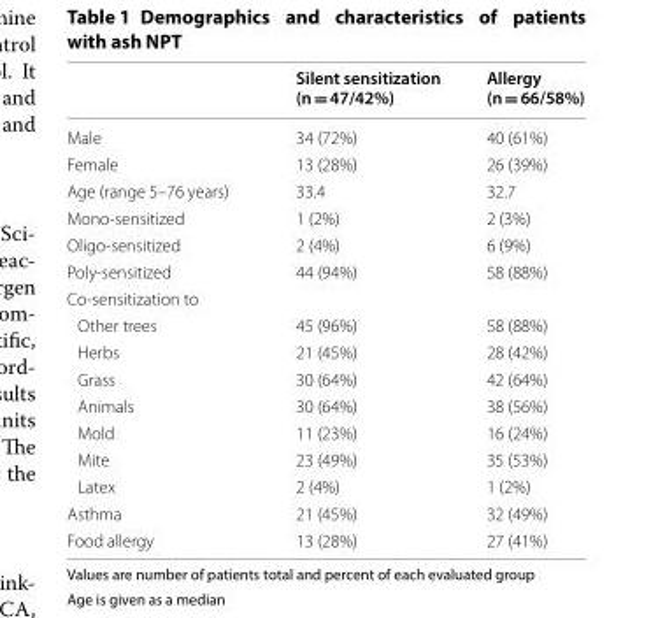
<table><thead><tr><td></td><td>Silent sensitization (n = 47/42%)</td><td>Allergy (n = 66/58%)</td></tr></thead><tbody><tr><td>Male</td><td>34 (72%)</td><td>40 (61%)</td></tr><tr><td>Female</td><td>13 (28%)</td><td>26 (39%)</td></tr><tr><td>Age (range 5–76 years)</td><td>33.4</td><td>32.7</td></tr><tr><td>Mono‑sensitized</td><td>1 (2%)</td><td>2 (3%)</td></tr><tr><td>Oligo‑sensitized</td><td>2 (4%)</td><td>6 (9%)</td></tr><tr><td>Poly‑sensitized</td><td>44 (94%)</td><td>58 (88%)</td></tr><tr><td colspan="3">Co‑sensitization to</td></tr><tr><td>Other trees</td><td>45 (96%)</td><td>58 (88%)</td></tr><tr><td>Herbs</td><td>21 (45%)</td><td>28 (42%)</td></tr><tr><td>Grass</td><td>30 (64%)</td><td>42 (64%)</td></tr><tr><td>Animals</td><td>30 (64%)</td><td>38 (56%)</td></tr><tr><td>Mold</td><td>11 (23%)</td><td>16 (24%)</td></tr><tr><td>Mite</td><td>23 (49%)</td><td>35 (53%)</td></tr><tr><td>Latex</td><td>2 (4%)</td><td>1 (2%)</td></tr><tr><td>Asthma</td><td>21 (45%)</td><td>32 (49%)</td></tr><tr><td>Food allergy</td><td>13 (28%)</td><td>27 (41%)</td></tr></tbody></table>